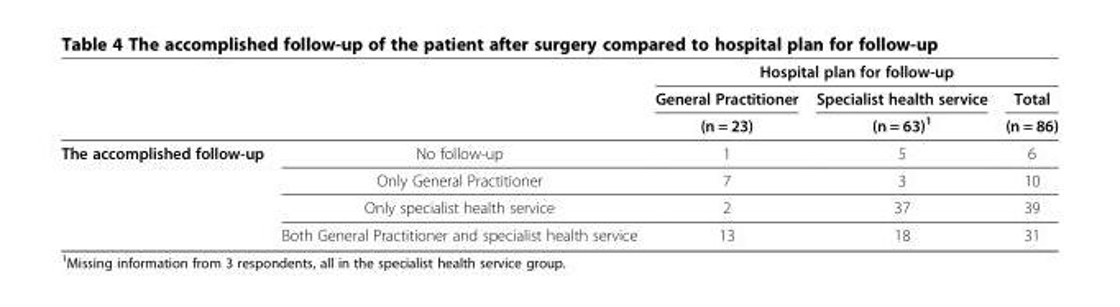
<table><thead><tr><td rowspan="3"></td><td rowspan="3"></td><td colspan="3">Hospital plan for follow-up</td></tr><tr><td rowspan="2">General Practitioner (n = 23)</td><td rowspan="2">Specialist health service (n = 63)<sup>1</sup></td><td rowspan="2">Total (n = 86)</td></tr><tr></tr></thead><tbody><tr><td rowspan="4">The accomplished follow-up</td><td>No follow-up</td><td>1</td><td>5</td><td>6</td></tr><tr><td>Only General Practitioner</td><td>7</td><td>3</td><td>10</td></tr><tr><td>Only specialist health service</td><td>2</td><td>37</td><td>39</td></tr><tr><td>Both General Practitioner and specialist health service</td><td>13</td><td>18</td><td>31</td></tr></tbody></table>